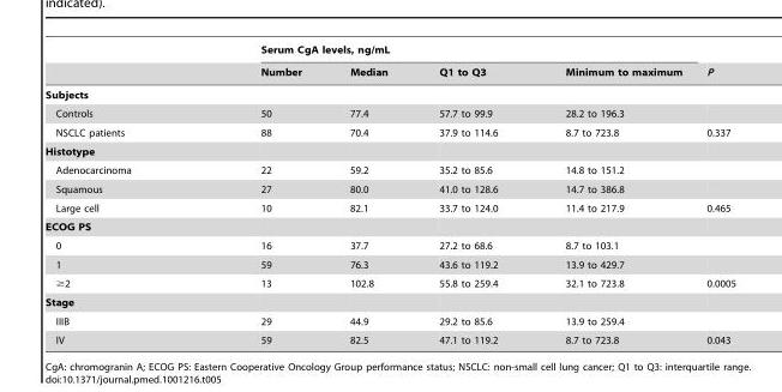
<table><thead><tr><td rowspan="2"></td><td colspan="4">Serum CgA levels, ng/mL</td><td rowspan="2">P</td></tr><tr><td>Number</td><td>Median</td><td>Q1 to Q3</td><td>Minimum to maximum</td></tr></thead><tbody><tr><td colspan="6">Subjects</td></tr><tr><td>Controls</td><td>50</td><td>77.4</td><td>57.7 to 99.9</td><td>28.2 to 196.3</td><td></td></tr><tr><td>NSCLC patients</td><td>88</td><td>70.4</td><td>37.9 to 114.6</td><td>8.7 to 723.8</td><td>0.337</td></tr><tr><td colspan="6">Histotype</td></tr><tr><td>Adenocarcinoma</td><td>22</td><td>59.2</td><td>35.2 to 85.6</td><td>14.8 to 151.2</td><td></td></tr><tr><td>Squamous</td><td>27</td><td>80.0</td><td>41.0 to 128.6</td><td>14.7 to 386.8</td><td></td></tr><tr><td>Large cell</td><td>10</td><td>82.1</td><td>33.7 to 124.0</td><td>11.4 to 217.9</td><td>0.465</td></tr><tr><td colspan="6">ECOG PS</td></tr><tr><td>0</td><td>16</td><td>37.7</td><td>27.2 to 68.6</td><td>8.7 to 103.1</td><td></td></tr><tr><td>1</td><td>59</td><td>76.3</td><td>43.6 to 119.2</td><td>13.9 to 429.7</td><td></td></tr><tr><td>≥2</td><td>13</td><td>102.8</td><td>55.8 to 259.4</td><td>32.1 to 723.8</td><td>0.0005</td></tr><tr><td colspan="6">Stage</td></tr><tr><td>IIIB</td><td>29</td><td>44.9</td><td>29.2 to 85.6</td><td>13.9 to 259.4</td><td></td></tr><tr><td>IV</td><td>59</td><td>82.5</td><td>47.1 to 119.2</td><td>8.7 to 723.8</td><td>0.043</td></tr></tbody></table>